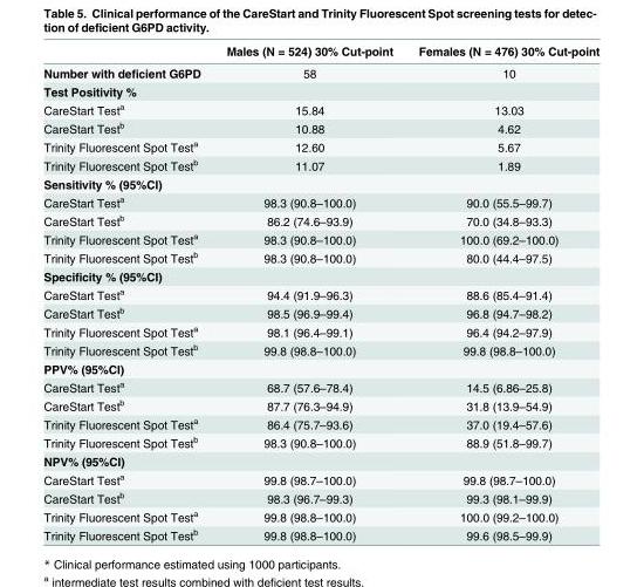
<table><thead><tr><td></td><td>Males (N = 524) 30% Cut-point</td><td>Females (N = 476) 30% Cut-point</td></tr></thead><tbody><tr><td>Number with deficient G6PD</td><td>58</td><td>10</td></tr><tr><td colspan="3">Test Positivity %</td></tr><tr><td>CareStart Test<sup>a</sup></td><td>15.84</td><td>13.03</td></tr><tr><td>CareStart Test<sup>b</sup></td><td>10.88</td><td>4.62</td></tr><tr><td>Trinity Fluorescent Spot Test<sup>a</sup></td><td>12.60</td><td>5.67</td></tr><tr><td>Trinity Fluorescent Spot Test<sup>b</sup></td><td>11.07</td><td>1.89</td></tr><tr><td colspan="3">Sensitivity % (95%CI)</td></tr><tr><td>CareStart Test<sup>a</sup></td><td>98.3 (90.8–100.0)</td><td>90.0 (55.5–99.7)</td></tr><tr><td>CareStart Test<sup>b</sup></td><td>86.2 (74.6–93.9)</td><td>70.0 (34.8–93.3)</td></tr><tr><td>Trinity Fluorescent Spot Test<sup>a</sup></td><td>98.3 (90.8–100.0)</td><td>100.0 (69.2–100.0)</td></tr><tr><td>Trinity Fluorescent Spot Test<sup>b</sup></td><td>98.3 (90.8–100.0)</td><td>80.0 (44.4–97.5)</td></tr><tr><td colspan="3">Specificity % (95%CI)</td></tr><tr><td>CareStart Test<sup>a</sup></td><td>94.4 (91.9–96.3)</td><td>88.6 (85.4–91.4)</td></tr><tr><td>CareStart Test<sup>b</sup></td><td>98.5 (96.9–99.4)</td><td>96.8 (94.7–98.2)</td></tr><tr><td>Trinity Fluorescent Spot Test<sup>a</sup></td><td>98.1 (96.4–99.1)</td><td>96.4 (94.2–97.9)</td></tr><tr><td>Trinity Fluorescent Spot Test<sup>b</sup></td><td>99.8 (98.8–100.0)</td><td>99.8 (98.8–100.0)</td></tr><tr><td colspan="3">PPV% (95%CI)</td></tr><tr><td>CareStart Test<sup>a</sup></td><td>68.7 (57.6–78.4)</td><td>14.5 (6.86–25.8)</td></tr><tr><td>CareStart Test<sup>b</sup></td><td>87.7 (76.3–94.9)</td><td>31.8 (13.9–54.9)</td></tr><tr><td>Trinity Fluorescent Spot Test<sup>a</sup></td><td>86.4 (75.7–93.6)</td><td>37.0 (19.4–57.6)</td></tr><tr><td>Trinity Fluorescent Spot Test<sup>b</sup></td><td>98.3 (90.8–100.0)</td><td>88.9 (51.8–99.7)</td></tr><tr><td colspan="3">NPV% (95%CI)</td></tr><tr><td>CareStart Test<sup>a</sup></td><td>99.8 (98.7–100.0)</td><td>99.8 (98.7–100.0)</td></tr><tr><td>CareStart Test<sup>b</sup></td><td>98.3 (96.7–99.3)</td><td>99.3 (98.1–99.9)</td></tr><tr><td>Trinity Fluorescent Spot Test<sup>a</sup></td><td>99.8 (98.8–100.0)</td><td>100.0 (99.2–100.0)</td></tr><tr><td>Trinity Fluorescent Spot Test<sup>b</sup></td><td>99.8 (98.8–100.0)</td><td>99.6 (98.5–99.9)</td></tr></tbody></table>